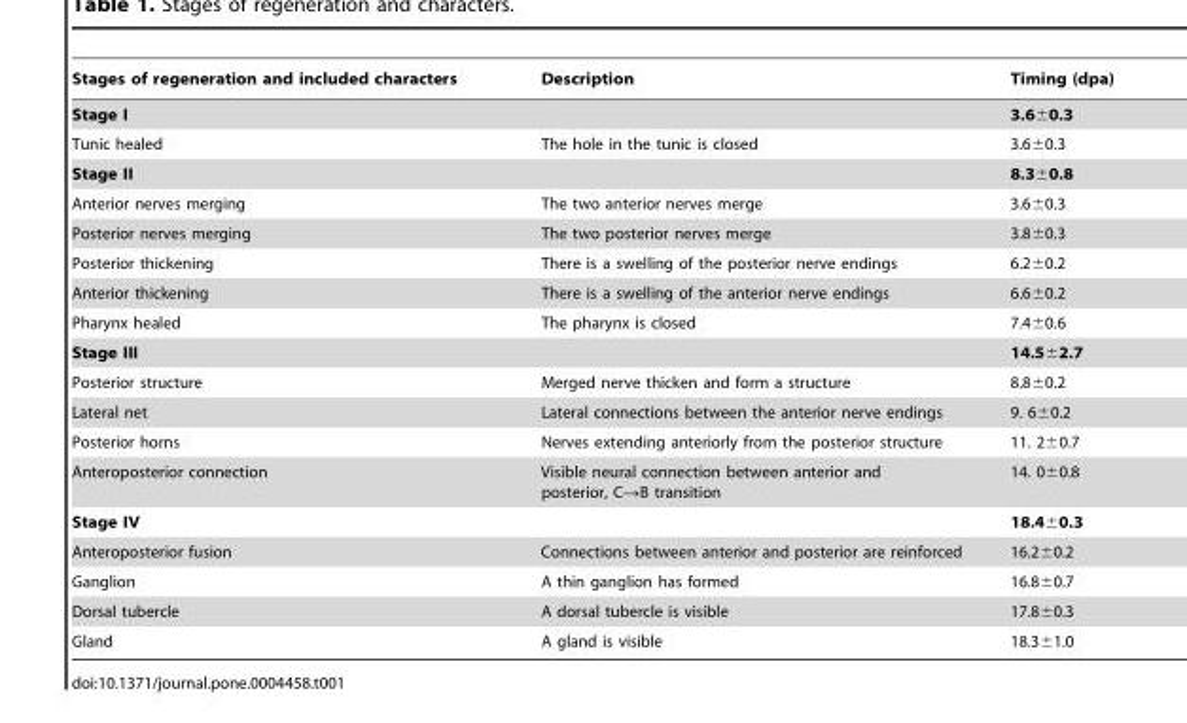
<table><thead><tr><td>Stages of regeneration and included characters</td><td>Description</td><td>Timing (dpa)</td></tr></thead><tbody><tr><td>Stage I</td><td></td><td>3.6±0.3</td></tr><tr><td>Tunic healed</td><td>The hole in the tunic is closed</td><td>3.6±0.3</td></tr><tr><td>Stage II</td><td></td><td>8.3±0.8</td></tr><tr><td>Anterior nerves merging</td><td>The two anterior nerves merge</td><td>3.6±0.3</td></tr><tr><td>Posterior nerves merging</td><td>The two posterior nerves merge</td><td>3.8±0.3</td></tr><tr><td>Posterior thickening</td><td>There is a swelling of the posterior nerve endings</td><td>6.2±0.2</td></tr><tr><td>Anterior thickening</td><td>There is a swelling of the anterior nerve endings</td><td>6.6±0.2</td></tr><tr><td>Pharynx healed</td><td>The pharynx is closed</td><td>7.4±0.6</td></tr><tr><td>Stage III</td><td></td><td>14.5±2.7</td></tr><tr><td>Posterior structure</td><td>Merged nerve thicken and form a structure</td><td>8.8±0.2</td></tr><tr><td>Lateral net</td><td>Lateral connections between the anterior nerve endings</td><td>9. 6±0.2</td></tr><tr><td>Posterior horns</td><td>Nerves extending anteriorly from the posterior structure</td><td>11. 2±0.7</td></tr><tr><td>Anteroposterior connection</td><td>Visible neural connection between anterior and posterior, C→B transition</td><td>14. 0±0.8</td></tr><tr><td>Stage IV</td><td></td><td>18.4±0.3</td></tr><tr><td>Anteroposterior fusion</td><td>Connections between anterior and posterior are reinforced</td><td>16.2±0.2</td></tr><tr><td>Ganglion</td><td>A thin ganglion has formed</td><td>16.8±0.7</td></tr><tr><td>Dorsal tubercle</td><td>A dorsal tubercle is visible</td><td>17.8±0.3</td></tr><tr><td>Gland</td><td>A gland is visible</td><td>18.3±1.0</td></tr></tbody></table>